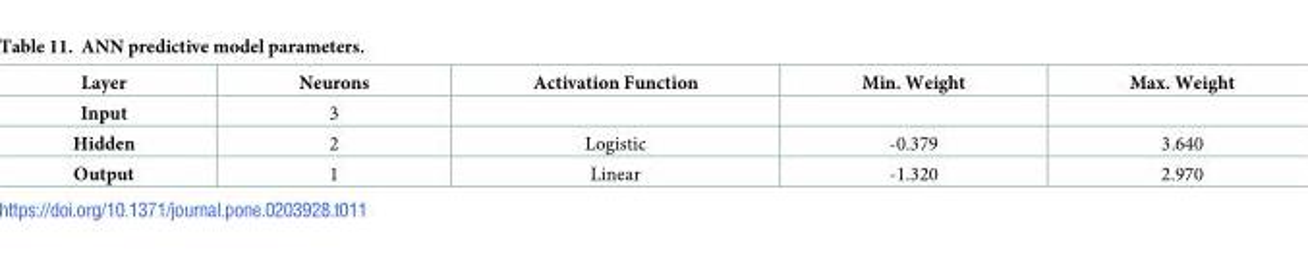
<table><thead><tr><td>Layer</td><td>Neurons</td><td>Activation Function</td><td>Min. Weight</td><td>Max. Weight</td></tr></thead><tbody><tr><td>Input</td><td>3</td><td></td><td></td><td></td></tr><tr><td>Hidden</td><td>2</td><td>Logistic</td><td>-0.379</td><td>3.640</td></tr><tr><td>Output</td><td>1</td><td>Linear</td><td>-1.320</td><td>2.970</td></tr></tbody></table>